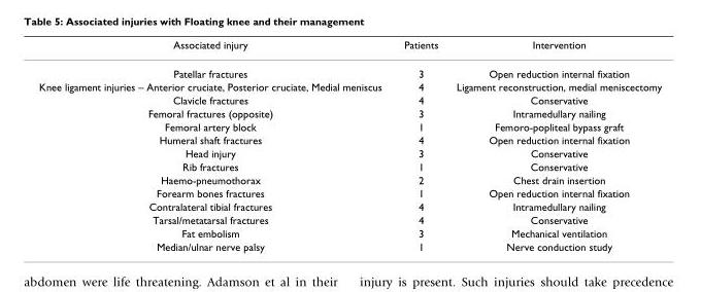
<table><thead><tr><td>Associated injury</td><td>Patients</td><td>Intervention</td></tr></thead><tbody><tr><td>Patellar fractures</td><td>3</td><td>Open reduction internal fixation</td></tr><tr><td>Knee ligament injuries – Anterior cruciate, Posterior cruciate, Medial meniscus</td><td>4</td><td>Ligament reconstruction, medial meniscectomy</td></tr><tr><td>Clavicle fractures</td><td>4</td><td>Conservative</td></tr><tr><td>Femoral fractures (opposite)</td><td>3</td><td>Intramedullary nailing</td></tr><tr><td>Femoral artery block</td><td>1</td><td>Femoro-popliteal bypass graft</td></tr><tr><td>Humeral shaft fractures</td><td>4</td><td>Open reduction internal fixation</td></tr><tr><td>Head injury</td><td>3</td><td>Conservative</td></tr><tr><td>Rib fractures</td><td>1</td><td>Conservative</td></tr><tr><td>Haemo-pneumothorax</td><td>2</td><td>Chest drain insertion</td></tr><tr><td>Forearm bones fractures</td><td>1</td><td>Open reduction internal fixation</td></tr><tr><td>Contralateral tibial fractures</td><td>4</td><td>Intramedullary nailing</td></tr><tr><td>Tarsal/metatarsal fractures</td><td>4</td><td>Conservative</td></tr><tr><td>Fat embolism</td><td>3</td><td>Mechanical ventilation</td></tr><tr><td>Median/ulnar nerve palsy</td><td>1</td><td>Nerve conduction study</td></tr></tbody></table>